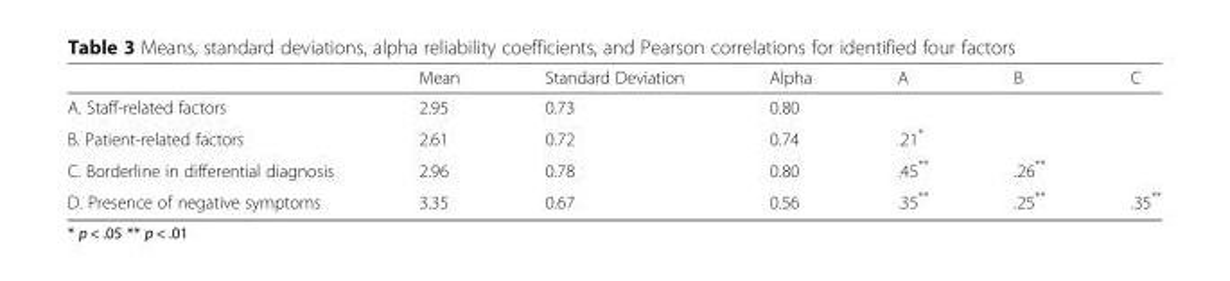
<table><thead><tr><td></td><td>Mean</td><td>Standard Deviation</td><td>Alpha</td><td>A</td><td>B</td><td>C</td></tr></thead><tbody><tr><td>A. Staff-related factors</td><td>2.95</td><td>0.73</td><td>0.80</td><td></td><td></td><td></td></tr><tr><td>B. Patient-related factors</td><td>2.61</td><td>0.72</td><td>0.74</td><td>.21*</td><td></td><td></td></tr><tr><td>C. Borderline in differential diagnosis</td><td>2.96</td><td>0.78</td><td>0.80</td><td>.45**</td><td>.26**</td><td></td></tr><tr><td>D. Presence of negative symptoms</td><td>3.35</td><td>0.67</td><td>0.56</td><td>.35**</td><td>.25**</td><td>.35**</td></tr></tbody></table>